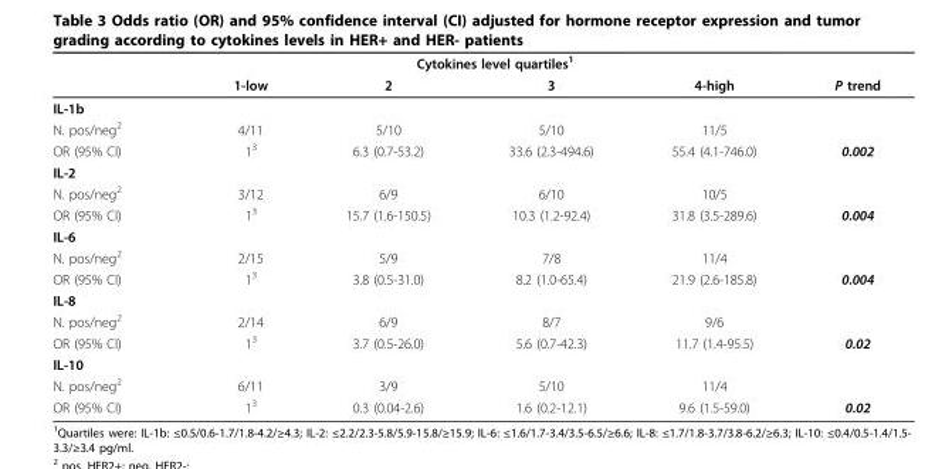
<table><thead><tr><td rowspan="2"></td><td colspan="4">Cytokines level quartiles<sup>1</sup></td><td rowspan="2">P trend</td></tr><tr><td>1-low</td><td>2</td><td>3</td><td>4-high</td></tr></thead><tbody><tr><td colspan="6">IL-1b</td></tr><tr><td>N. pos/neg<sup>2</sup></td><td>4/11</td><td>5/10</td><td>5/10</td><td>11/5</td><td></td></tr><tr><td>OR (95% CI)</td><td>1<sup>3</sup></td><td>6.3 (0.7-53.2)</td><td>33.6 (2.3-494.6)</td><td>55.4 (4.1-746.0)</td><td>0.002</td></tr><tr><td colspan="6">IL-2</td></tr><tr><td>N. pos/neg<sup>2</sup></td><td>3/12</td><td>6/9</td><td>6/10</td><td>10/5</td><td></td></tr><tr><td>OR (95% CI)</td><td>1<sup>3</sup></td><td>15.7 (1.6-150.5)</td><td>10.3 (1.2-92.4)</td><td>31.8 (3.5-289.6)</td><td>0.004</td></tr><tr><td colspan="6">IL-6</td></tr><tr><td>N. pos/neg<sup>2</sup></td><td>2/15</td><td>5/9</td><td>7/8</td><td>11/4</td><td></td></tr><tr><td>OR (95% CI)</td><td>1<sup>3</sup></td><td>3.8 (0.5-31.0)</td><td>8.2 (1.0-65.4)</td><td>21.9 (2.6-185.8)</td><td>0.004</td></tr><tr><td colspan="6">IL-8</td></tr><tr><td>N. pos/neg<sup>2</sup></td><td>2/14</td><td>6/9</td><td>8/7</td><td>9/6</td><td></td></tr><tr><td>OR (95% CI)</td><td>1<sup>3</sup></td><td>3.7 (0.5-26.0)</td><td>5.6 (0.7-42.3)</td><td>11.7 (1.4-95.5)</td><td>0.02</td></tr><tr><td colspan="6">IL-10</td></tr><tr><td>N. pos/neg<sup>2</sup></td><td>6/11</td><td>3/9</td><td>5/10</td><td>11/4</td><td></td></tr><tr><td>OR (95% CI)</td><td>1<sup>3</sup></td><td>0.3 (0.04-2.6)</td><td>1.6 (0.2-12.1)</td><td>9.6 (1.5-59.0)</td><td>0.02</td></tr></tbody></table>